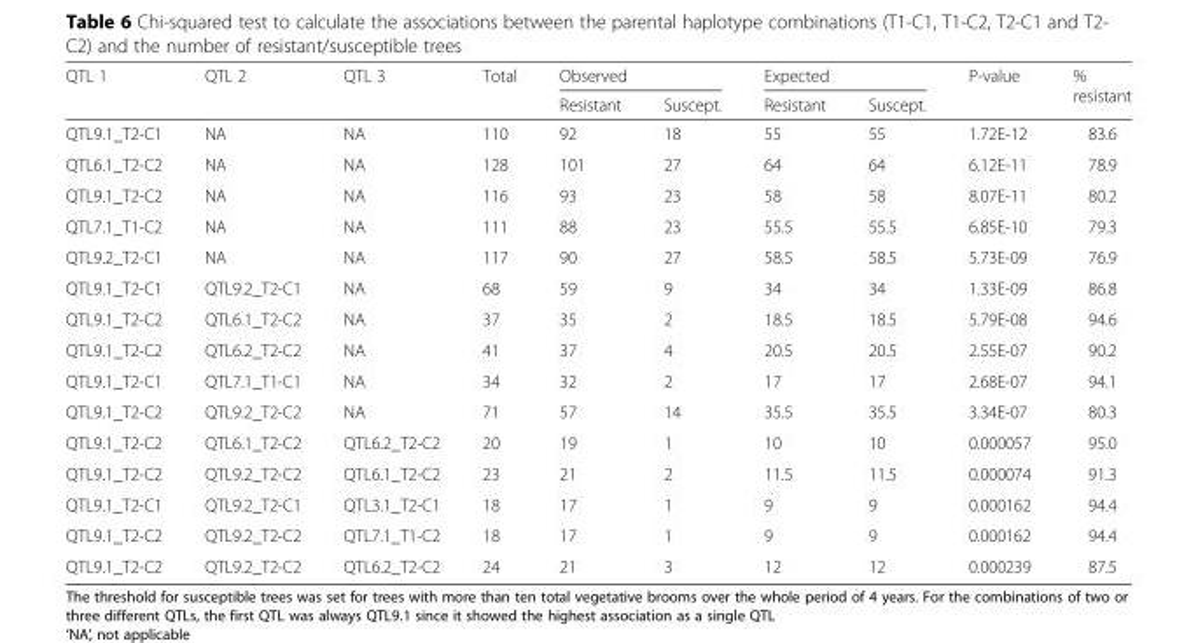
<table><thead><tr><td rowspan="2">QTL 1</td><td rowspan="2">QTL 2</td><td rowspan="2">QTL 3</td><td rowspan="2">Total</td><td colspan="2">Observed</td><td colspan="2">Expected</td><td rowspan="2">P-value</td><td rowspan="2">% resistant</td></tr><tr><td>Resistant</td><td>Suscept.</td><td>Resistant</td><td>Suscept.</td></tr></thead><tbody><tr><td>QTL9.1_T2-C1</td><td>NA</td><td>NA</td><td>110</td><td>92</td><td>18</td><td>55</td><td>55</td><td>1.72E-12</td><td>83.6</td></tr><tr><td>QTL6.1_T2-C2</td><td>NA</td><td>NA</td><td>128</td><td>101</td><td>27</td><td>64</td><td>64</td><td>6.12E-11</td><td>78.9</td></tr><tr><td>QTL9.1_T2-C2</td><td>NA</td><td>NA</td><td>116</td><td>93</td><td>23</td><td>58</td><td>58</td><td>8.07E-11</td><td>80.2</td></tr><tr><td>QTL7.1_T1-C2</td><td>NA</td><td>NA</td><td>111</td><td>88</td><td>23</td><td>55.5</td><td>55.5</td><td>6.85E-10</td><td>79.3</td></tr><tr><td>QTL9.2_T2-C1</td><td>NA</td><td>NA</td><td>117</td><td>90</td><td>27</td><td>58.5</td><td>58.5</td><td>5.73E-09</td><td>76.9</td></tr><tr><td>QTL9.1_T2-C1</td><td>QTL9.2_T2-C1</td><td>NA</td><td>68</td><td>59</td><td>9</td><td>34</td><td>34</td><td>1.33E-09</td><td>86.8</td></tr><tr><td>QTL9.1_T2-C2</td><td>QTL6.1_T2-C2</td><td>NA</td><td>37</td><td>35</td><td>2</td><td>18.5</td><td>18.5</td><td>5.79E-08</td><td>94.6</td></tr><tr><td>QTL9.1_T2-C2</td><td>QTL6.2_T2-C2</td><td>NA</td><td>41</td><td>37</td><td>4</td><td>20.5</td><td>20.5</td><td>2.55E-07</td><td>90.2</td></tr><tr><td>QTL9.1_T2-C1</td><td>QTL7.1_T1-C1</td><td>NA</td><td>34</td><td>32</td><td>2</td><td>17</td><td>17</td><td>2.68E-07</td><td>94.1</td></tr><tr><td>QTL9.1_T2-C2</td><td>QTL9.2_T2-C2</td><td>NA</td><td>71</td><td>57</td><td>14</td><td>35.5</td><td>35.5</td><td>3.34E-07</td><td>80.3</td></tr><tr><td>QTL9.1_T2-C2</td><td>QTL6.1_T2-C2</td><td>QTL6.2_T2-C2</td><td>20</td><td>19</td><td>1</td><td>10</td><td>10</td><td>0.000057</td><td>95.0</td></tr><tr><td>QTL9.1_T2-C2</td><td>QTL9.2_T2-C2</td><td>QTL6.1_T2-C2</td><td>23</td><td>21</td><td>2</td><td>11.5</td><td>11.5</td><td>0.000074</td><td>91.3</td></tr><tr><td>QTL9.1_T2-C1</td><td>QTL9.2_T2-C1</td><td>QTL3.1_T2-C1</td><td>18</td><td>17</td><td>1</td><td>9</td><td>9</td><td>0.000162</td><td>94.4</td></tr><tr><td>QTL9.1_T2-C2</td><td>QTL9.2_T2-C2</td><td>QTL7.1_T1-C2</td><td>18</td><td>17</td><td>1</td><td>9</td><td>9</td><td>0.000162</td><td>94.4</td></tr><tr><td>QTL9.1_T2-C2</td><td>QTL9.2_T2-C2</td><td>QTL6.2_T2-C2</td><td>24</td><td>21</td><td>3</td><td>12</td><td>12</td><td>0.000239</td><td>87.5</td></tr></tbody></table>